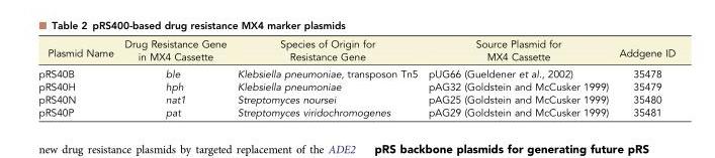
<table><thead><tr><td>Plasmid Name</td><td>Drug Resistance Gene in MX4 Cassette</td><td>Species of Origin for Resistance Gene</td><td>Source Plasmid for MX4 Cassette</td><td>Addgene ID</td></tr></thead><tbody><tr><td>pRS40B</td><td>ble</td><td>Klebsiella pneumoniae, transposon Tn5</td><td>pUG66 (Gueldener et al., 2002)</td><td>35478</td></tr><tr><td>pRS40H</td><td>hph</td><td>Klebsiella pneumoniae</td><td>pAG32 (Goldstein and McCusker 1999)</td><td>35479</td></tr><tr><td>pRS40N</td><td>nat1</td><td>Streptomyces noursei</td><td>pAG25 (Goldstein and McCusker 1999)</td><td>35480</td></tr><tr><td>pRS40P</td><td>pat</td><td>Streptomyces viridochromogenes</td><td>pAG29 (Goldstein and McCusker 1999)</td><td>35481</td></tr></tbody></table>